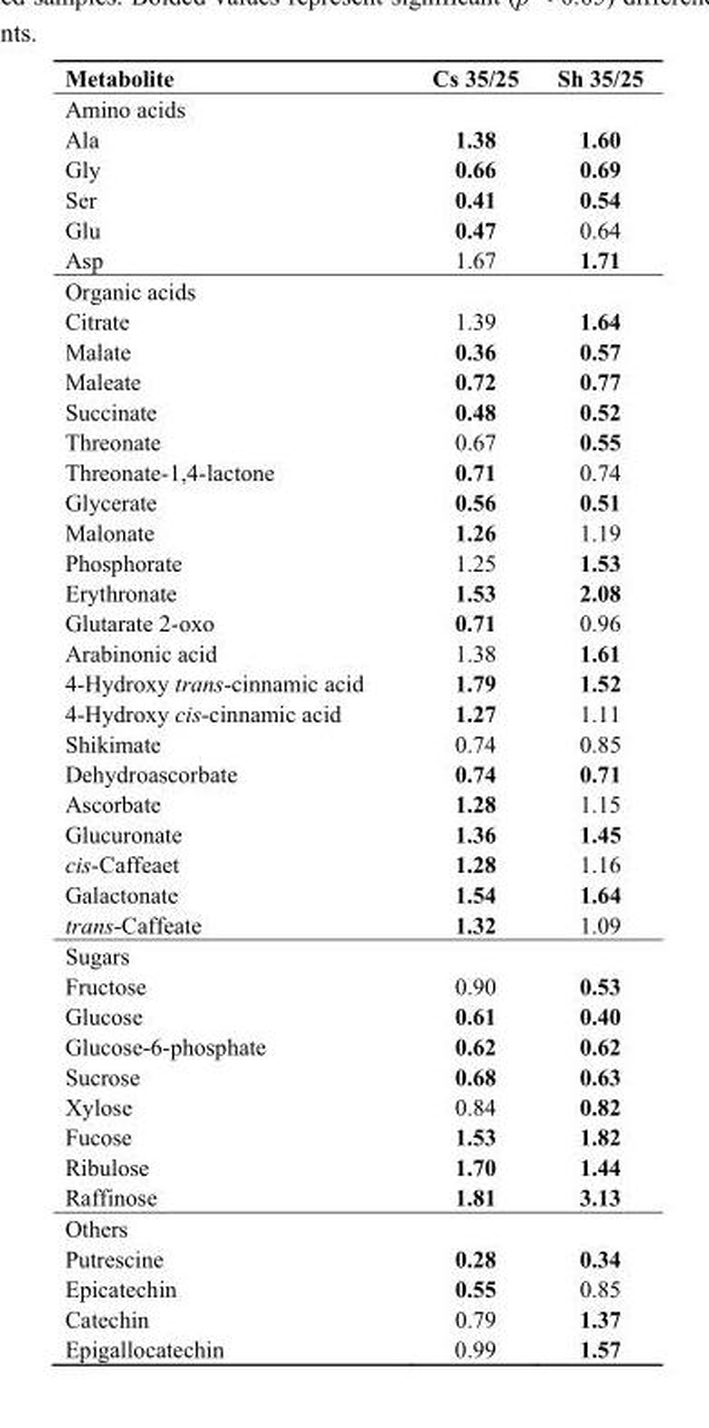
<table><thead><tr><td>Metabolite</td><td>Cs 35/25</td><td>Sh 35/25</td></tr></thead><tbody><tr><td colspan="3">Amino acids</td></tr><tr><td>Ala</td><td>1.38</td><td>1.60</td></tr><tr><td>Gly</td><td>0.66</td><td>0.69</td></tr><tr><td>Ser</td><td>0.41</td><td>0.54</td></tr><tr><td>Glu</td><td>0.47</td><td>0.64</td></tr><tr><td>Asp</td><td>1.67</td><td>1.71</td></tr><tr><td colspan="3">Organic acids</td></tr><tr><td>Citrate</td><td>1.39</td><td>1.64</td></tr><tr><td>Malate</td><td>0.36</td><td>0.57</td></tr><tr><td>Maleate</td><td>0.72</td><td>0.77</td></tr><tr><td>Succinate</td><td>0.48</td><td>0.52</td></tr><tr><td>Threonate</td><td>0.67</td><td>0.55</td></tr><tr><td>Threonate-1,4-lactone</td><td>0.71</td><td>0.74</td></tr><tr><td>Glycerate</td><td>0.56</td><td>0.51</td></tr><tr><td>Malonate</td><td>1.26</td><td>1.19</td></tr><tr><td>Phosphorate</td><td>1.25</td><td>1.53</td></tr><tr><td>Erythronate</td><td>1.53</td><td>2.08</td></tr><tr><td>Glutarate 2-oxo</td><td>0.71</td><td>0.96</td></tr><tr><td>Arabinonic acid</td><td>1.38</td><td>1.61</td></tr><tr><td>4-Hydroxy trans-cinnamic acid</td><td>1.79</td><td>1.52</td></tr><tr><td>4-Hydroxy cis-cinnamic acid</td><td>1.27</td><td>1.11</td></tr><tr><td>Shikimate</td><td>0.74</td><td>0.85</td></tr><tr><td>Dehydroascorbate</td><td>0.74</td><td>0.71</td></tr><tr><td>Ascorbate</td><td>1.28</td><td>1.15</td></tr><tr><td>Glucuronate</td><td>1.36</td><td>1.45</td></tr><tr><td>cis-Caffeaet</td><td>1.28</td><td>1.16</td></tr><tr><td>Galactonate</td><td>1.54</td><td>1.64</td></tr><tr><td>trans-Caffeate</td><td>1.32</td><td>1.09</td></tr><tr><td colspan="3">Sugars</td></tr><tr><td>Fructose</td><td>0.90</td><td>0.53</td></tr><tr><td>Glucose</td><td>0.61</td><td>0.40</td></tr><tr><td>Glucose-6-phosphate</td><td>0.62</td><td>0.62</td></tr><tr><td>Sucrose</td><td>0.68</td><td>0.63</td></tr><tr><td>Xylose</td><td>0.84</td><td>0.82</td></tr><tr><td>Fucose</td><td>1.53</td><td>1.82</td></tr><tr><td>Ribulose</td><td>1.70</td><td>1.44</td></tr><tr><td>Raffinose</td><td>1.81</td><td>3.13</td></tr><tr><td colspan="3">Others</td></tr><tr><td>Putrescine</td><td>0.28</td><td>0.34</td></tr><tr><td>Epicatechin</td><td>0.55</td><td>0.85</td></tr><tr><td>Catechin</td><td>0.79</td><td>1.37</td></tr><tr><td>Epigallocatechin</td><td>0.99</td><td>1.57</td></tr></tbody></table>